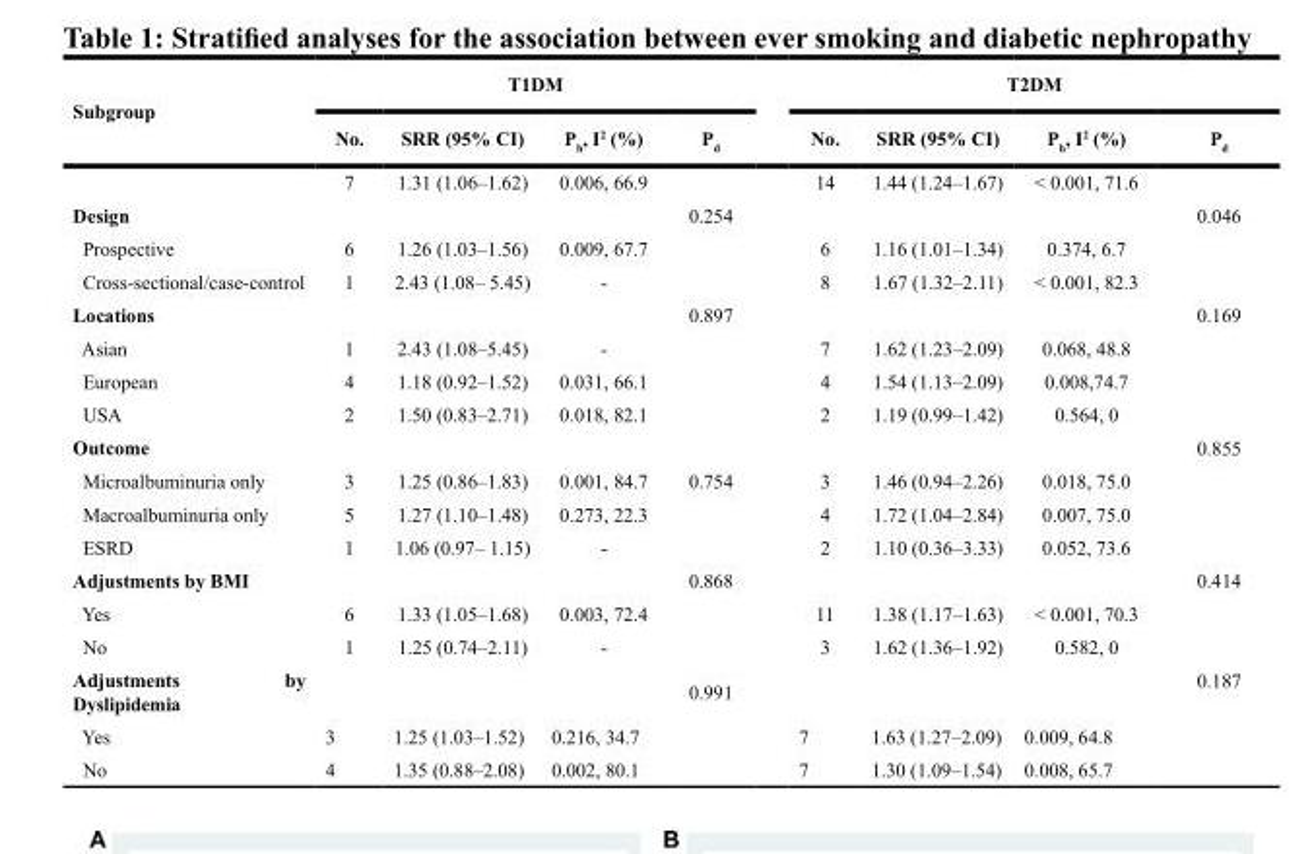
<table><thead><tr><td rowspan="2">Subgroup</td><td colspan="4">T1DM</td><td colspan="4">T2DM</td></tr><tr><td>No.</td><td>SRR (95% CI)</td><td>P<sub>h</sub>, I<sup>2</sup> (%)</td><td>P<sub>d</sub></td><td>No.</td><td>SRR (95% CI)</td><td>P<sub>h</sub>, I<sup>2</sup> (%)</td><td>P<sub>d</sub></td></tr></thead><tbody><tr><td></td><td>7</td><td>1.31 (1.06–1.62)</td><td>0.006, 66.9</td><td></td><td>14</td><td>1.44 (1.24–1.67)</td><td>&lt; 0.001, 71.6</td><td></td></tr><tr><td>Design</td><td></td><td></td><td></td><td>0.254</td><td></td><td></td><td></td><td>0.046</td></tr><tr><td>Prospective</td><td>6</td><td>1.26 (1.03–1.56)</td><td>0.009, 67.7</td><td></td><td>6</td><td>1.16 (1.01–1.34)</td><td>0.374, 6.7</td><td></td></tr><tr><td>Cross-sectional/case-control</td><td>1</td><td>2.43 (1.08– 5.45)</td><td>-</td><td></td><td>8</td><td>1.67 (1.32–2.11)</td><td>&lt; 0.001, 82.3</td><td></td></tr><tr><td>Locations</td><td></td><td></td><td></td><td>0.897</td><td></td><td></td><td></td><td>0.169</td></tr><tr><td>Asian</td><td>1</td><td>2.43 (1.08–5.45)</td><td>-</td><td></td><td>7</td><td>1.62 (1.23–2.09)</td><td>0.068, 48.8</td><td></td></tr><tr><td>European</td><td>4</td><td>1.18 (0.92–1.52)</td><td>0.031, 66.1</td><td></td><td>4</td><td>1.54 (1.13–2.09)</td><td>0.008,74.7</td><td></td></tr><tr><td>USA</td><td>2</td><td>1.50 (0.83–2.71)</td><td>0.018, 82.1</td><td></td><td>2</td><td>1.19 (0.99–1.42)</td><td>0.564, 0</td><td></td></tr><tr><td>Outcome</td><td></td><td></td><td></td><td></td><td></td><td></td><td></td><td>0.855</td></tr><tr><td>Microalbuminuria only</td><td>3</td><td>1.25 (0.86–1.83)</td><td>0.001, 84.7</td><td>0.754</td><td>3</td><td>1.46 (0.94–2.26)</td><td>0.018, 75.0</td><td></td></tr><tr><td>Macroalbuminuria only</td><td>5</td><td>1.27 (1.10–1.48)</td><td>0.273, 22.3</td><td></td><td>4</td><td>1.72 (1.04–2.84)</td><td>0.007, 75.0</td><td></td></tr><tr><td>ESRD</td><td>1</td><td>1.06 (0.97– 1.15)</td><td>-</td><td></td><td>2</td><td>1.10 (0.36–3.33)</td><td>0.052, 73.6</td><td></td></tr><tr><td>Adjustments by BMI</td><td></td><td></td><td></td><td>0.868</td><td></td><td></td><td></td><td>0.414</td></tr><tr><td>Yes</td><td>6</td><td>1.33 (1.05–1.68)</td><td>0.003, 72.4</td><td></td><td>11</td><td>1.38 (1.17–1.63)</td><td>&lt; 0.001, 70.3</td><td></td></tr><tr><td>No</td><td>1</td><td>1.25 (0.74–2.11)</td><td>-</td><td></td><td>3</td><td>1.62 (1.36–1.92)</td><td>0.582, 0</td><td></td></tr><tr><td>Adjustments by Dyslipidemia</td><td></td><td></td><td></td><td>0.991</td><td></td><td></td><td></td><td>0.187</td></tr><tr><td>Yes</td><td>3</td><td>1.25 (1.03–1.52)</td><td>0.216, 34.7</td><td></td><td>7</td><td>1.63 (1.27–2.09)</td><td>0.009, 64.8</td><td></td></tr><tr><td>No</td><td>4</td><td>1.35 (0.88–2.08)</td><td>0.002, 80.1</td><td></td><td>7</td><td>1.30 (1.09–1.54)</td><td>0.008, 65.7</td><td></td></tr></tbody></table>